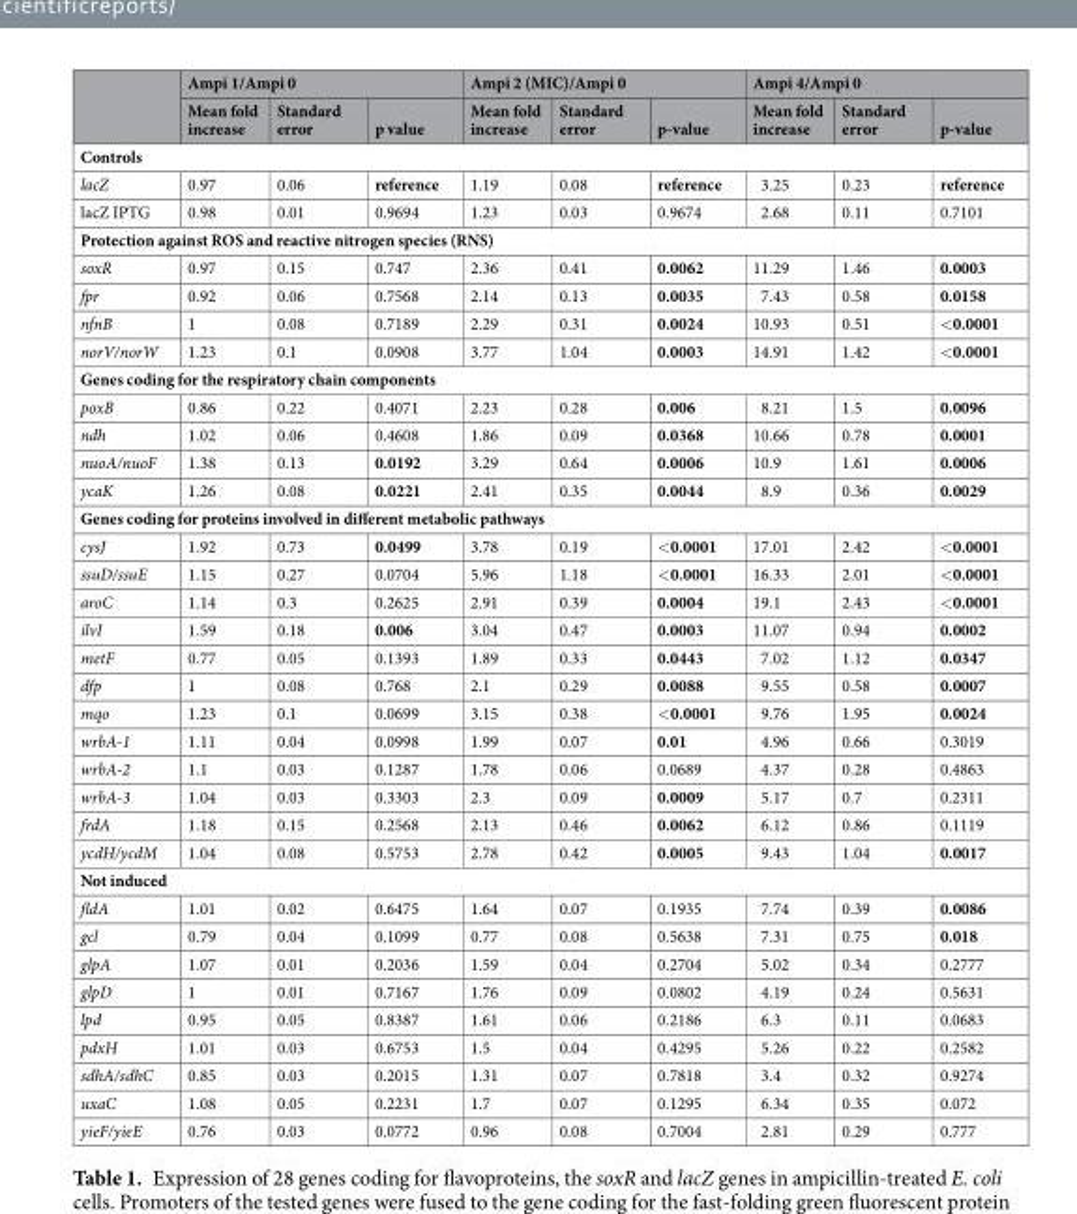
<table><thead><tr><td rowspan="2"></td><td colspan="3">Ampi 1/Ampi 0</td><td colspan="3">Ampi 2 (MIC)/Ampi 0</td><td colspan="3">Ampi 4/Ampi 0</td></tr><tr><td>Mean fold increase</td><td>Standard error</td><td>p value</td><td>Mean fold increase</td><td>Standard error</td><td>p-value</td><td>Mean fold increase</td><td>Standard error</td><td>p-value</td></tr></thead><tbody><tr><td colspan="10">Controls</td></tr><tr><td>lacZ</td><td>0.97</td><td>0.06</td><td>reference</td><td>1.19</td><td>0.08</td><td>reference</td><td>3.25</td><td>0.23</td><td>reference</td></tr><tr><td>lacZ IPTG</td><td>0.98</td><td>0.01</td><td>0.9694</td><td>1.23</td><td>0.03</td><td>0.9674</td><td>2.68</td><td>0.11</td><td>0.7101</td></tr><tr><td colspan="10">Protection against ROS and reactive nitrogen species (RNS)</td></tr><tr><td>soxR</td><td>0.97</td><td>0.15</td><td>0.747</td><td>2.36</td><td>0.41</td><td>0.0062</td><td>11.29</td><td>1.46</td><td>0.0003</td></tr><tr><td>fpr</td><td>0.92</td><td>0.06</td><td>0.7568</td><td>2.14</td><td>0.13</td><td>0.0035</td><td>7.43</td><td>0.58</td><td>0.0158</td></tr><tr><td>nfnB</td><td>1</td><td>0.08</td><td>0.7189</td><td>2.29</td><td>0.31</td><td>0.0024</td><td>10.93</td><td>0.51</td><td>&lt;0.0001</td></tr><tr><td>norV/norW</td><td>1.23</td><td>0.1</td><td>0.0908</td><td>3.77</td><td>1.04</td><td>0.0003</td><td>14.91</td><td>1.42</td><td>&lt;0.0001</td></tr><tr><td colspan="10">Genes coding for the respiratory chain components</td></tr><tr><td>poxB</td><td>0.86</td><td>0.22</td><td>0.4071</td><td>2.23</td><td>0.28</td><td>0.006</td><td>8.21</td><td>1.5</td><td>0.0096</td></tr><tr><td>ndh</td><td>1.02</td><td>0.06</td><td>0.4608</td><td>1.86</td><td>0.09</td><td>0.0368</td><td>10.66</td><td>0.78</td><td>0.0001</td></tr><tr><td>nuoA/nuoF</td><td>1.38</td><td>0.13</td><td>0.0192</td><td>3.29</td><td>0.64</td><td>0.0006</td><td>10.9</td><td>1.61</td><td>0.0006</td></tr><tr><td>ycaK</td><td>1.26</td><td>0.08</td><td>0.0221</td><td>2.41</td><td>0.35</td><td>0.0044</td><td>8.9</td><td>0.36</td><td>0.0029</td></tr><tr><td colspan="10">Genes coding for proteins involved in different metabolic pathways</td></tr><tr><td>cysJ</td><td>1.92</td><td>0.73</td><td>0.0499</td><td>3.78</td><td>0.19</td><td>&lt;0.0001</td><td>17.01</td><td>2.42</td><td>&lt;0.0001</td></tr><tr><td>ssuD/ssuE</td><td>1.15</td><td>0.27</td><td>0.0704</td><td>5.96</td><td>1.18</td><td>&lt;0.0001</td><td>16.33</td><td>2.01</td><td>&lt;0.0001</td></tr><tr><td>aroC</td><td>1.14</td><td>0.3</td><td>0.2625</td><td>2.91</td><td>0.39</td><td>0.0004</td><td>19.1</td><td>2.43</td><td>&lt;0.0001</td></tr><tr><td>ilvI</td><td>1.59</td><td>0.18</td><td>0.006</td><td>3.04</td><td>0.47</td><td>0.0003</td><td>11.07</td><td>0.94</td><td>0.0002</td></tr><tr><td>metF</td><td>0.77</td><td>0.05</td><td>0.1393</td><td>1.89</td><td>0.33</td><td>0.0443</td><td>7.02</td><td>1.12</td><td>0.0347</td></tr><tr><td>dfp</td><td>1</td><td>0.08</td><td>0.768</td><td>2.1</td><td>0.29</td><td>0.0088</td><td>9.55</td><td>0.58</td><td>0.0007</td></tr><tr><td>mqo</td><td>1.23</td><td>0.1</td><td>0.0699</td><td>3.15</td><td>0.38</td><td>&lt;0.0001</td><td>9.76</td><td>1.95</td><td>0.0024</td></tr><tr><td>wrbA-1</td><td>1.11</td><td>0.04</td><td>0.0998</td><td>1.99</td><td>0.07</td><td>0.01</td><td>4.96</td><td>0.66</td><td>0.3019</td></tr><tr><td>wrbA-2</td><td>1.1</td><td>0.03</td><td>0.1287</td><td>1.78</td><td>0.06</td><td>0.0689</td><td>4.37</td><td>0.28</td><td>0.4863</td></tr><tr><td>wrbA-3</td><td>1.04</td><td>0.03</td><td>0.3303</td><td>2.3</td><td>0.09</td><td>0.0009</td><td>5.17</td><td>0.7</td><td>0.2311</td></tr><tr><td>frdA</td><td>1.18</td><td>0.15</td><td>0.2568</td><td>2.13</td><td>0.46</td><td>0.0062</td><td>6.12</td><td>0.86</td><td>0.1119</td></tr><tr><td>ycdH/ycdM</td><td>1.04</td><td>0.08</td><td>0.5753</td><td>2.78</td><td>0.42</td><td>0.0005</td><td>9.43</td><td>1.04</td><td>0.0017</td></tr><tr><td colspan="10">Not induced</td></tr><tr><td>fldA</td><td>1.01</td><td>0.02</td><td>0.6475</td><td>1.64</td><td>0.07</td><td>0.1935</td><td>7.74</td><td>0.39</td><td>0.0086</td></tr><tr><td>gcl</td><td>0.79</td><td>0.04</td><td>0.1099</td><td>0.77</td><td>0.08</td><td>0.5638</td><td>7.31</td><td>0.75</td><td>0.018</td></tr><tr><td>glpA</td><td>1.07</td><td>0.01</td><td>0.2036</td><td>1.59</td><td>0.04</td><td>0.2704</td><td>5.02</td><td>0.34</td><td>0.2777</td></tr><tr><td>glpD</td><td>1</td><td>0.01</td><td>0.7167</td><td>1.76</td><td>0.09</td><td>0.0802</td><td>4.19</td><td>0.24</td><td>0.5631</td></tr><tr><td>lpd</td><td>0.95</td><td>0.05</td><td>0.8387</td><td>1.61</td><td>0.06</td><td>0.2186</td><td>6.3</td><td>0.11</td><td>0.0683</td></tr><tr><td>pdxH</td><td>1.01</td><td>0.03</td><td>0.6753</td><td>1.5</td><td>0.04</td><td>0.4295</td><td>5.26</td><td>0.22</td><td>0.2582</td></tr><tr><td>sdhA/sdhC</td><td>0.85</td><td>0.03</td><td>0.2015</td><td>1.31</td><td>0.07</td><td>0.7818</td><td>3.4</td><td>0.32</td><td>0.9274</td></tr><tr><td>uxaC</td><td>1.08</td><td>0.05</td><td>0.2231</td><td>1.7</td><td>0.07</td><td>0.1295</td><td>6.34</td><td>0.35</td><td>0.072</td></tr><tr><td>yieF/yieE</td><td>0.76</td><td>0.03</td><td>0.0772</td><td>0.96</td><td>0.08</td><td>0.7004</td><td>2.81</td><td>0.29</td><td>0.777</td></tr></tbody></table>